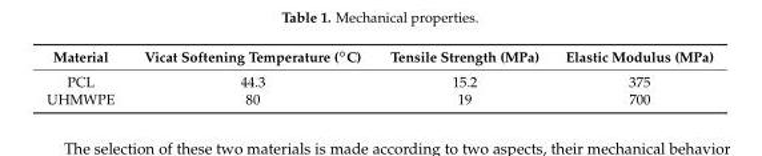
<table><thead><tr><td>Material</td><td>Vicat Softening Temperature (◦C)</td><td>Tensile Strength (MPa)</td><td>Elastic Modulus (MPa)</td></tr></thead><tbody><tr><td>PCL</td><td>44.3</td><td>15.2</td><td>375</td></tr><tr><td>UHMWPE</td><td>80</td><td>19</td><td>700</td></tr></tbody></table>